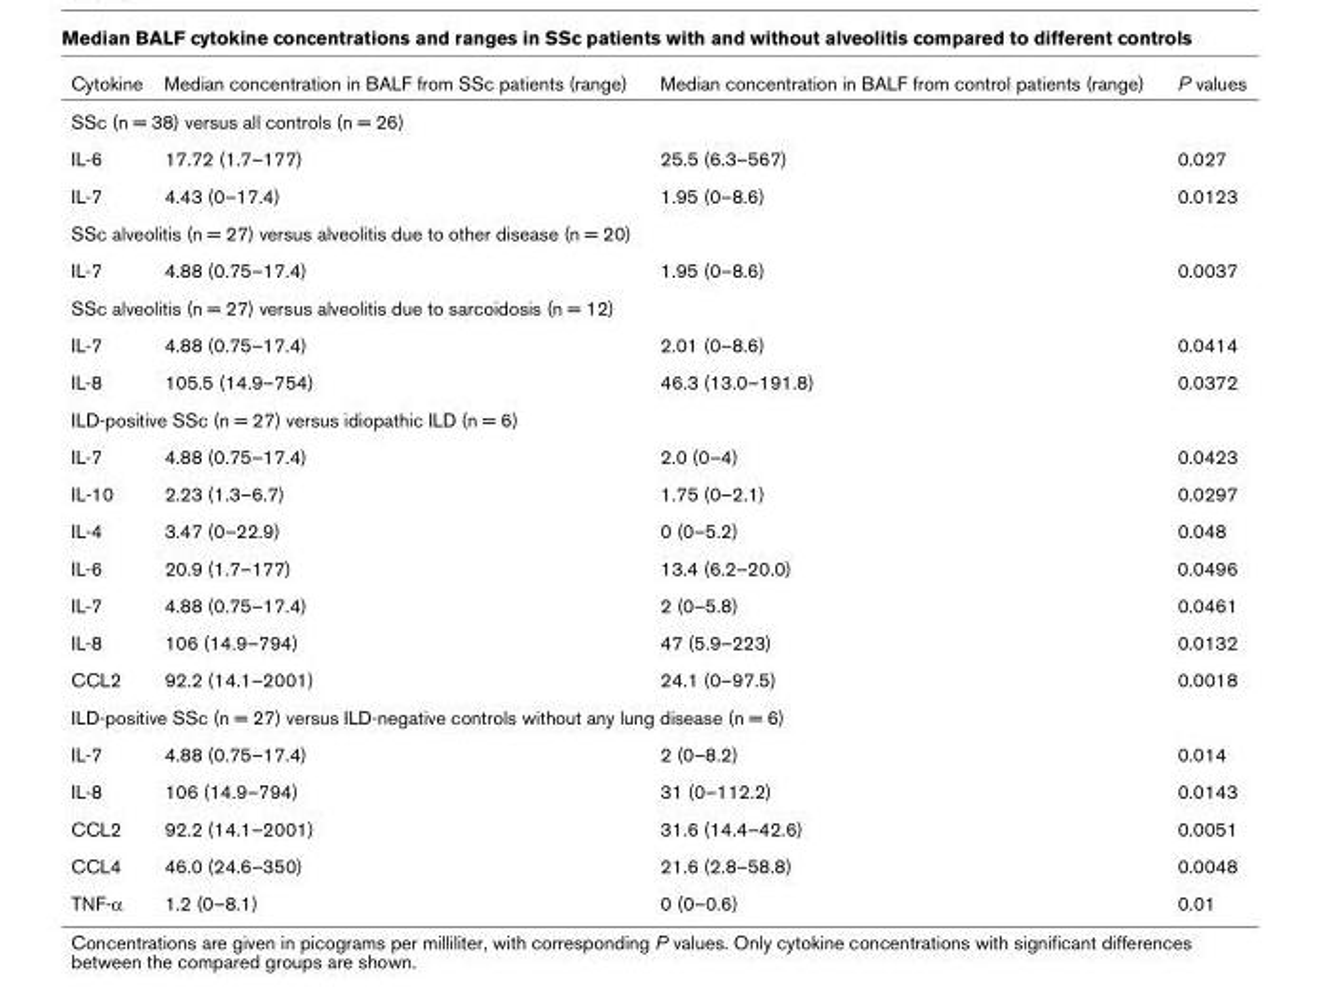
<table><thead><tr><td>Cytokine</td><td>Median concentration in BALF from SSc patients (range)</td><td>Median concentration in BALF from control patients (range)</td><td>P values</td></tr></thead><tbody><tr><td colspan="4">SSc (n = 38) versus all controls (n = 26)</td></tr><tr><td>IL-6</td><td>17.72 (1.7–177)</td><td>25.5 (6.3–567)</td><td>0.027</td></tr><tr><td>IL-7</td><td>4.43 (0–17.4)</td><td>1.95 (0–8.6)</td><td>0.0123</td></tr><tr><td colspan="4">SSc alveolitis (n = 27) versus alveolitis due to other disease (n = 20)</td></tr><tr><td>IL-7</td><td>4.88 (0.75–17.4)</td><td>1.95 (0–8.6)</td><td>0.0037</td></tr><tr><td colspan="4">SSc alveolitis (n = 27) versus alveolitis due to sarcoidosis (n = 12)</td></tr><tr><td>IL-7</td><td>4.88 (0.75–17.4)</td><td>2.01 (0–8.6)</td><td>0.0414</td></tr><tr><td>IL-8</td><td>105.5 (14.9–754)</td><td>46.3 (13.0–191.8)</td><td>0.0372</td></tr><tr><td colspan="4">ILD-positive SSc (n = 27) versus idiopathic ILD (n = 6)</td></tr><tr><td>IL-7</td><td>4.88 (0.75–17.4)</td><td>2.0 (0–4)</td><td>0.0423</td></tr><tr><td>IL-10</td><td>2.23 (1.3–6.7)</td><td>1.75 (0–2.1)</td><td>0.0297</td></tr><tr><td>IL-4</td><td>3.47 (0–22.9)</td><td>0 (0–5.2)</td><td>0.048</td></tr><tr><td>IL-6</td><td>20.9 (1.7–177)</td><td>13.4 (6.2–20.0)</td><td>0.0496</td></tr><tr><td>IL-7</td><td>4.88 (0.75–17.4)</td><td>2 (0–5.8)</td><td>0.0461</td></tr><tr><td>IL-8</td><td>106 (14.9–794)</td><td>47 (5.9–223)</td><td>0.0132</td></tr><tr><td>CCL2</td><td>92.2 (14.1–2001)</td><td>24.1 (0–97.5)</td><td>0.0018</td></tr><tr><td colspan="4">ILD-positive SSc (n = 27) versus ILD-negative controls without any lung disease (n = 6)</td></tr><tr><td>IL-7</td><td>4.88 (0.75–17.4)</td><td>2 (0–8.2)</td><td>0.014</td></tr><tr><td>IL-8</td><td>106 (14.9–794)</td><td>31 (0–112.2)</td><td>0.0143</td></tr><tr><td>CCL2</td><td>92.2 (14.1–2001)</td><td>31.6 (14.4–42.6)</td><td>0.0051</td></tr><tr><td>CCL4</td><td>46.0 (24.6–350)</td><td>21.6 (2.8–58.8)</td><td>0.0048</td></tr><tr><td>TNF-α</td><td>1.2 (0–8.1)</td><td>0 (0–0.6)</td><td>0.01</td></tr></tbody></table>